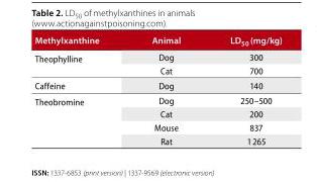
<table><thead><tr><td>Methylxanthine</td><td>Animal</td><td>LD<sub>50</sub> (mg/kg)</td></tr></thead><tbody><tr><td rowspan="2">Theophylline</td><td>Dog</td><td>300</td></tr><tr><td>Cat</td><td>700</td></tr><tr><td>Caffeine</td><td>Dog</td><td>140</td></tr><tr><td rowspan="4">Theobromine</td><td>Dog</td><td>250–500</td></tr><tr><td>Cat</td><td>200</td></tr><tr><td>Mouse</td><td>837</td></tr><tr><td>Rat</td><td>1 265</td></tr></tbody></table>